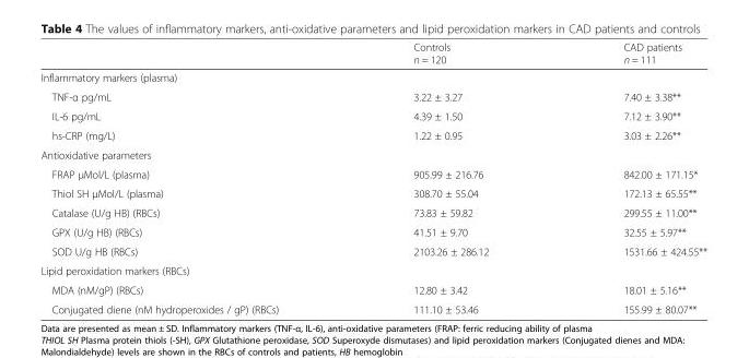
<table><thead><tr><td></td><td>Controls n = 120</td><td>CAD patients n = 111</td></tr></thead><tbody><tr><td colspan="3">Inflammatory markers (plasma)</td></tr><tr><td>TNF-α pg/mL</td><td>3.22 ± 3.27</td><td>7.40 ± 3.38**</td></tr><tr><td>IL-6 pg/mL</td><td>4.39 ± 1.50</td><td>7.12 ± 3.90**</td></tr><tr><td>hs-CRP (mg/L)</td><td>1.22 ± 0.95</td><td>3.03 ± 2.26**</td></tr><tr><td colspan="3">Antioxidative parameters</td></tr><tr><td>FRAP μMol/L (plasma)</td><td>905.99 ± 216.76</td><td>842.00 ± 171.15*</td></tr><tr><td>Thiol SH μMol/L (plasma)</td><td>308.70 ± 55.04</td><td>172.13 ± 65.55**</td></tr><tr><td>Catalase (U/g HB) (RBCs)</td><td>73.83 ± 59.82</td><td>299.55 ± 11.00**</td></tr><tr><td>GPX (U/g HB) (RBCs)</td><td>41.51 ± 9.70</td><td>32.55 ± 5.97**</td></tr><tr><td>SOD U/g HB (RBCs)</td><td>2103.26 ± 286.12</td><td>1531.66 ± 424.55**</td></tr><tr><td colspan="3">Lipid peroxidation markers (RBCs)</td></tr><tr><td>MDA (nM/gP) (RBCs)</td><td>12.80 ± 3.42</td><td>18.01 ± 5.16**</td></tr><tr><td>Conjugated diene (nM hydroperoxides / gP) (RBCs)</td><td>111.10 ± 53.46</td><td>155.99 ± 80.07**</td></tr></tbody></table>